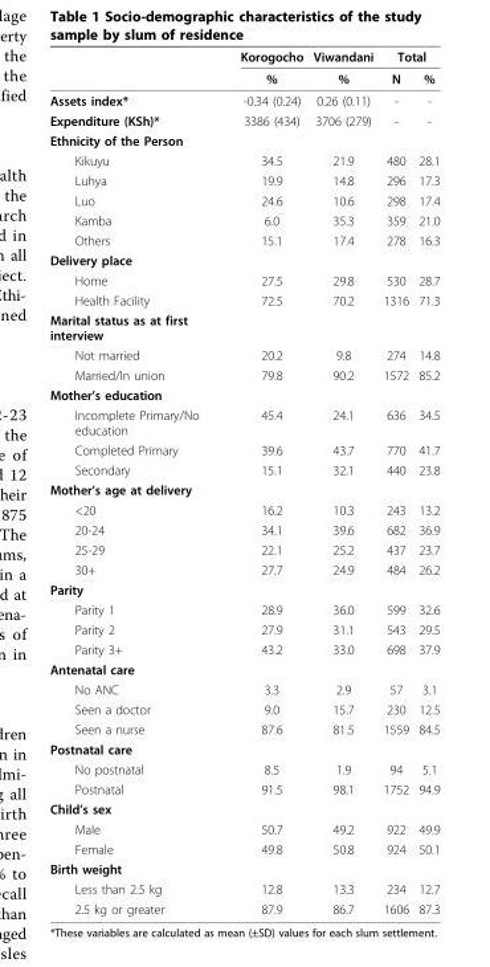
<table><thead><tr><td rowspan="2"></td><td rowspan="2">Korogocho %</td><td rowspan="2">Viwandani %</td><td colspan="2">Total</td></tr><tr><td>N</td><td>%</td></tr></thead><tbody><tr><td>Assets index*</td><td>-0.34 (0.24)</td><td>0.26 (0.11)</td><td>-</td><td>-</td></tr><tr><td>Expenditure (KSh)*</td><td>3386 (434)</td><td>3706 (279)</td><td>-</td><td>-</td></tr><tr><td colspan="5">Ethnicity of the Person</td></tr><tr><td>Kikuyu</td><td>34.5</td><td>21.9</td><td>480</td><td>28.1</td></tr><tr><td>Luhya</td><td>19.9</td><td>14.8</td><td>296</td><td>17.3</td></tr><tr><td>Luo</td><td>24.6</td><td>10.6</td><td>298</td><td>17.4</td></tr><tr><td>Kamba</td><td>6.0</td><td>35.3</td><td>359</td><td>21.0</td></tr><tr><td>Others</td><td>15.1</td><td>17.4</td><td>278</td><td>16.3</td></tr><tr><td colspan="5">Delivery place</td></tr><tr><td>Home</td><td>27.5</td><td>29.8</td><td>530</td><td>28.7</td></tr><tr><td>Health Facility</td><td>72.5</td><td>70.2</td><td>1316</td><td>71.3</td></tr><tr><td colspan="5">Marital status as at first interview</td></tr><tr><td>Not married</td><td>20.2</td><td>9.8</td><td>274</td><td>14.8</td></tr><tr><td>Married/In union</td><td>79.8</td><td>90.2</td><td>1572</td><td>85.2</td></tr><tr><td colspan="5">Mother’s education</td></tr><tr><td>Incomplete Primary/No education</td><td>45.4</td><td>24.1</td><td>636</td><td>34.5</td></tr><tr><td>Completed Primary</td><td>39.6</td><td>43.7</td><td>770</td><td>41.7</td></tr><tr><td>Secondary</td><td>15.1</td><td>32.1</td><td>440</td><td>23.8</td></tr><tr><td colspan="5">Mother’s age at delivery</td></tr><tr><td>&lt;20</td><td>16.2</td><td>10.3</td><td>243</td><td>13.2</td></tr><tr><td>20-24</td><td>34.1</td><td>39.6</td><td>682</td><td>36.9</td></tr><tr><td>25-29</td><td>22.1</td><td>25.2</td><td>437</td><td>23.7</td></tr><tr><td>30+</td><td>27.7</td><td>24.9</td><td>484</td><td>26.2</td></tr><tr><td colspan="5">Parity</td></tr><tr><td>Parity 1</td><td>28.9</td><td>36.0</td><td>599</td><td>32.6</td></tr><tr><td>Parity 2</td><td>27.9</td><td>31.1</td><td>543</td><td>29.5</td></tr><tr><td>Parity 3+</td><td>43.2</td><td>33.0</td><td>698</td><td>37.9</td></tr><tr><td colspan="5">Antenatal care</td></tr><tr><td>No ANC</td><td>3.3</td><td>2.9</td><td>57</td><td>3.1</td></tr><tr><td>Seen a doctor</td><td>9.0</td><td>15.7</td><td>230</td><td>12.5</td></tr><tr><td>Seen a nurse</td><td>87.6</td><td>81.5</td><td>1559</td><td>84.5</td></tr><tr><td colspan="5">Postnatal care</td></tr><tr><td>No postnatal</td><td>8.5</td><td>1.9</td><td>94</td><td>5.1</td></tr><tr><td>Postnatal</td><td>91.5</td><td>98.1</td><td>1752</td><td>94.9</td></tr><tr><td colspan="5">Child’s sex</td></tr><tr><td>Male</td><td>50.7</td><td>49.2</td><td>922</td><td>49.9</td></tr><tr><td>Female</td><td>49.8</td><td>50.8</td><td>924</td><td>50.1</td></tr><tr><td colspan="5">Birth weight</td></tr><tr><td>Less than 2.5 kg</td><td>12.8</td><td>13.3</td><td>234</td><td>12.7</td></tr><tr><td>2.5 kg or greater</td><td>87.9</td><td>86.7</td><td>1606</td><td>87.3</td></tr></tbody></table>